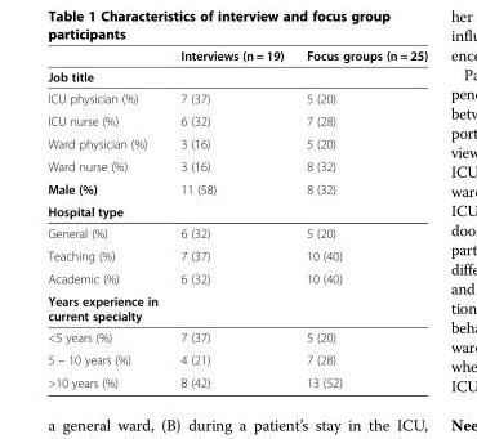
<table><thead><tr><td></td><td>Interviews (n = 19)</td><td>Focus groups (n = 25)</td></tr></thead><tbody><tr><td colspan="3">Job title</td></tr><tr><td>ICU physician (%)</td><td>7 (37)</td><td>5 (20)</td></tr><tr><td>ICU nurse (%)</td><td>6 (32)</td><td>7 (28)</td></tr><tr><td>Ward physician (%)</td><td>3 (16)</td><td>5 (20)</td></tr><tr><td>Ward nurse (%)</td><td>3 (16)</td><td>8 (32)</td></tr><tr><td>Male (%)</td><td>11 (58)</td><td>8 (32)</td></tr><tr><td colspan="3">Hospital type</td></tr><tr><td>General (%)</td><td>6 (32)</td><td>5 (20)</td></tr><tr><td>Teaching (%)</td><td>7 (37)</td><td>10 (40)</td></tr><tr><td>Academic (%)</td><td>6 (32)</td><td>10 (40)</td></tr><tr><td colspan="3">Years experience in current specialty</td></tr><tr><td>&lt;5 years (%)</td><td>7 (37)</td><td>5 (20)</td></tr><tr><td>5 – 10 years (%)</td><td>4 (21)</td><td>7 (28)</td></tr><tr><td>&gt;10 years (%)</td><td>8 (42)</td><td>13 (52)</td></tr></tbody></table>